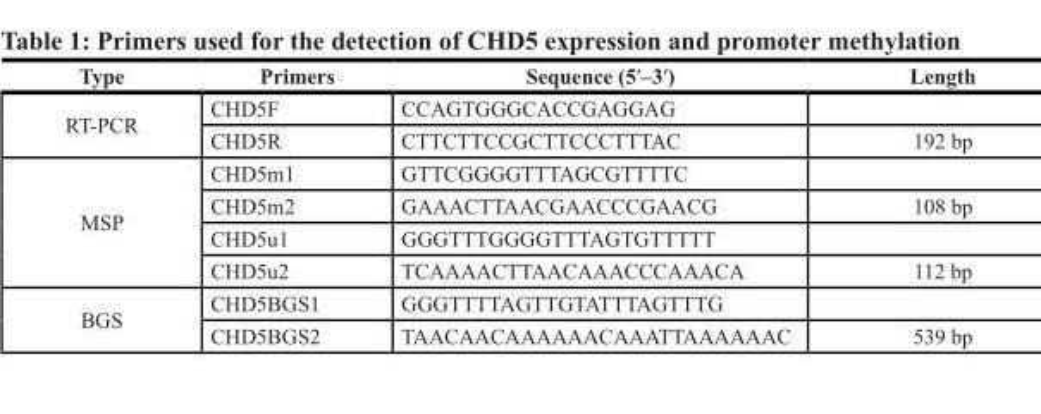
<table><thead><tr><td>Type</td><td>Primers</td><td>Sequence (5′–3′)</td><td>Length</td></tr></thead><tbody><tr><td rowspan="2">RT-PCR</td><td>CHD5F</td><td>CCAGTGGGCACCGAGGAG</td><td></td></tr><tr><td>CHD5R</td><td>CTTCTTCCGCTTCCCTTTAC</td><td>192 bp</td></tr><tr><td rowspan="4">MSP</td><td>CHD5m1</td><td>GTTCGGGGTTTAGCGTTTTC</td><td></td></tr><tr><td>CHD5m2</td><td>GAAACTTAACGAACCCGAACG</td><td>108 bp</td></tr><tr><td>CHD5u1</td><td>GGGTTTGGGGTTTAGTGTTTTT</td><td></td></tr><tr><td>CHD5u2</td><td>TCAAAACTTAACAAACCCAAACA</td><td>112 bp</td></tr><tr><td rowspan="2">BGS</td><td>CHD5BGS1</td><td>GGGTTTTAGTTGTATTTAGTTTG</td><td></td></tr><tr><td>CHD5BGS2</td><td>TAACAACAAAAAACAAATTAAAAAAC</td><td>539 bp</td></tr></tbody></table>